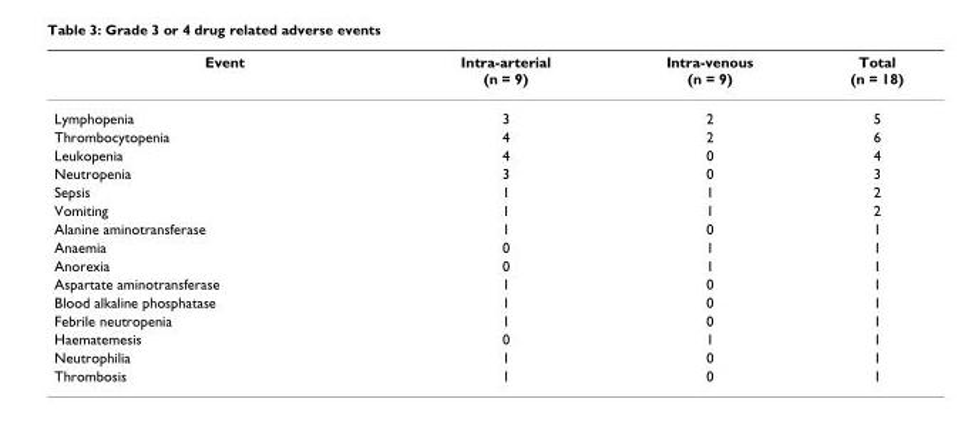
<table><thead><tr><td>Event</td><td>Intra-arterial (n = 9)</td><td>Intra-venous (n = 9)</td><td>Total (n = 18)</td></tr></thead><tbody><tr><td>Lymphopenia</td><td>3</td><td>2</td><td>5</td></tr><tr><td>Thrombocytopenia</td><td>4</td><td>2</td><td>6</td></tr><tr><td>Leukopenia</td><td>4</td><td>0</td><td>4</td></tr><tr><td>Neutropenia</td><td>3</td><td>0</td><td>3</td></tr><tr><td>Sepsis</td><td>1</td><td>1</td><td>2</td></tr><tr><td>Vomiting</td><td>1</td><td>1</td><td>2</td></tr><tr><td>Alanine aminotransferase</td><td>1</td><td>0</td><td>1</td></tr><tr><td>Anaemia</td><td>0</td><td>1</td><td>1</td></tr><tr><td>Anorexia</td><td>0</td><td>1</td><td>1</td></tr><tr><td>Aspartate aminotransferase</td><td>1</td><td>0</td><td>1</td></tr><tr><td>Blood alkaline phosphatase</td><td>1</td><td>0</td><td>1</td></tr><tr><td>Febrile neutropenia</td><td>1</td><td>0</td><td>1</td></tr><tr><td>Haematemesis</td><td>0</td><td>1</td><td>1</td></tr><tr><td>Neutrophilia</td><td>1</td><td>0</td><td>1</td></tr><tr><td>Thrombosis</td><td>1</td><td>0</td><td>1</td></tr></tbody></table>